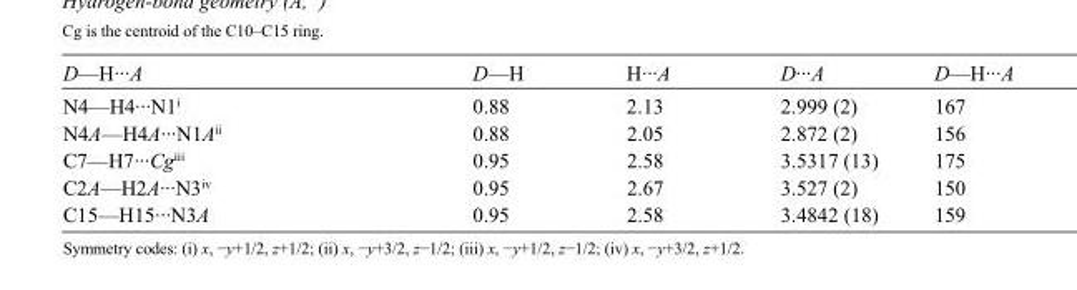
<table><tbody><tr><td>D—H···A</td><td>D—H</td><td>H···A</td><td>D···A</td><td>D—H···A</td></tr><tr><td>N4—H4···N1<sup>i</sup></td><td>0.88</td><td>2.13</td><td>2.999 (2)</td><td>167</td></tr><tr><td>N4A—H4A···N1A<sup>ii</sup></td><td>0.88</td><td>2.05</td><td>2.872 (2)</td><td>156</td></tr><tr><td>C7—H7···Cg<sup>iii</sup></td><td>0.95</td><td>2.58</td><td>3.5317 (13)</td><td>175</td></tr><tr><td>C2A—H2A···N3<sup>iv</sup></td><td>0.95</td><td>2.67</td><td>3.527 (2)</td><td>150</td></tr><tr><td>C15—H15···N3A</td><td>0.95</td><td>2.58</td><td>3.4842 (18)</td><td>159</td></tr></tbody></table>